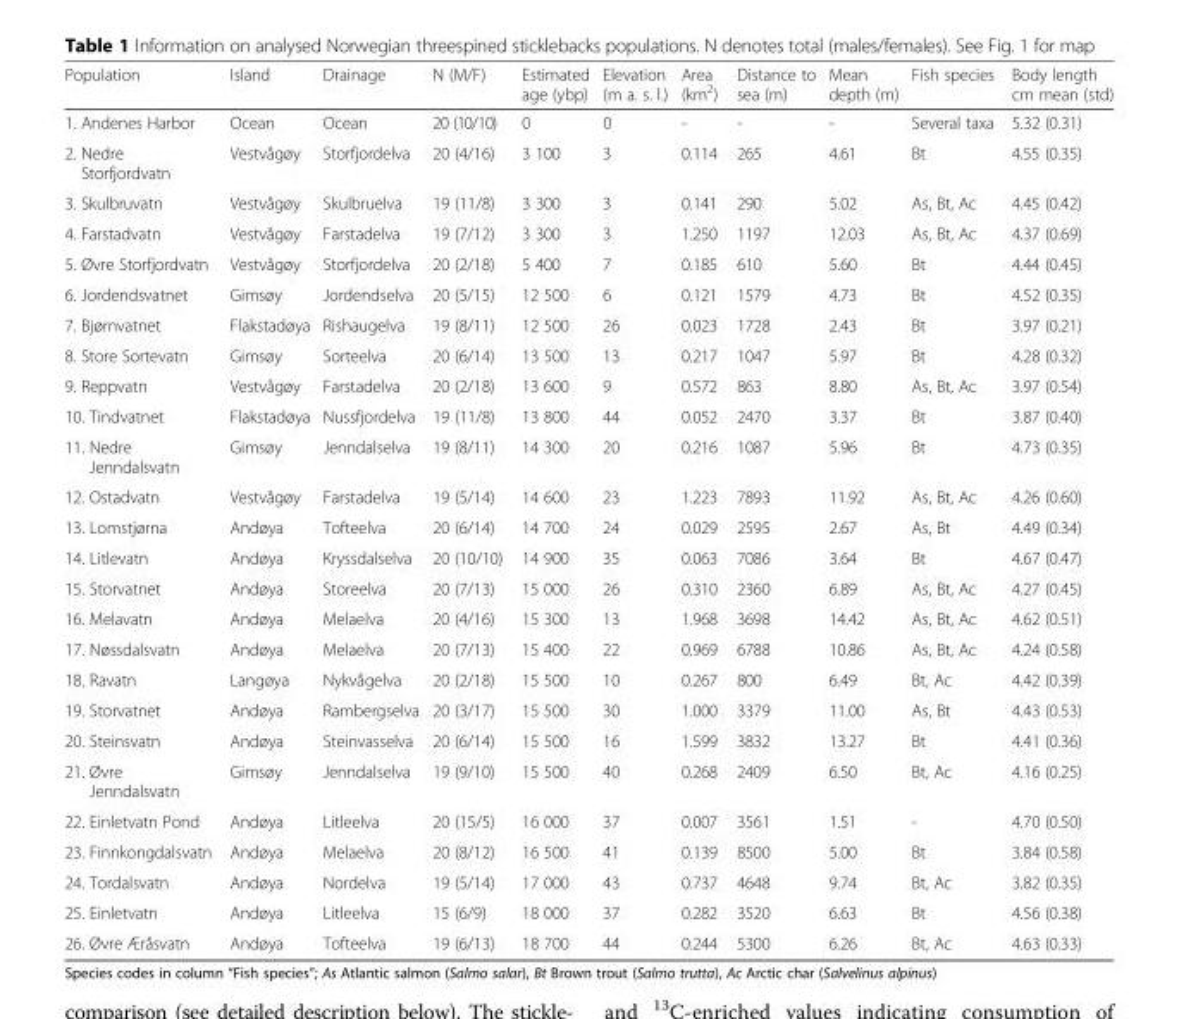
<table><thead><tr><td>Population</td><td>Island</td><td>Drainage</td><td>N (M/F)</td><td>Estimated age (ybp)</td><td>Elevation (m a. s. l.)</td><td>Area (km<sup>2</sup>)</td><td>Distance to sea (m)</td><td>Mean depth (m)</td><td>Fish species</td><td>Body length cm mean (std)</td></tr></thead><tbody><tr><td>1. Andenes Harbor</td><td>Ocean</td><td>Ocean</td><td>20 (10/10)</td><td>0</td><td>0</td><td>-</td><td>-</td><td>-</td><td>Several taxa</td><td>5.32 (0.31)</td></tr><tr><td>2. Nedre Storfjordvatn</td><td>Vestvågøy</td><td>Storfjordelva</td><td>20 (4/16)</td><td>3 100</td><td>3</td><td>0.114</td><td>265</td><td>4.61</td><td>Bt</td><td>4.55 (0.35)</td></tr><tr><td>3. Skulbruvatn</td><td>Vestvågøy</td><td>Skulbruelva</td><td>19 (11/8)</td><td>3 300</td><td>3</td><td>0.141</td><td>290</td><td>5.02</td><td>As, Bt, Ac</td><td>4.45 (0.42)</td></tr><tr><td>4. Farstadvatn</td><td>Vestvågøy</td><td>Farstadelva</td><td>19 (7/12)</td><td>3 300</td><td>3</td><td>1.250</td><td>1197</td><td>12.03</td><td>As, Bt, Ac</td><td>4.37 (0.69)</td></tr><tr><td>5. Øvre Storfjordvatn</td><td>Vestvågøy</td><td>Storfjordelva</td><td>20 (2/18)</td><td>5 400</td><td>7</td><td>0.185</td><td>610</td><td>5.60</td><td>Bt</td><td>4.44 (0.45)</td></tr><tr><td>6. Jordendsvatnet</td><td>Gimsøy</td><td>Jordendselva</td><td>20 (5/15)</td><td>12 500</td><td>6</td><td>0.121</td><td>1579</td><td>4.73</td><td>Bt</td><td>4.52 (0.35)</td></tr><tr><td>7. Bjørnvatnet</td><td>Flakstadøya</td><td>Rishaugelva</td><td>19 (8/11)</td><td>12 500</td><td>26</td><td>0.023</td><td>1728</td><td>2.43</td><td>Bt</td><td>3.97 (0.21)</td></tr><tr><td>8. Store Sortevatn</td><td>Gimsøy</td><td>Sorteelva</td><td>20 (6/14)</td><td>13 500</td><td>13</td><td>0.217</td><td>1047</td><td>5.97</td><td>Bt</td><td>4.28 (0.32)</td></tr><tr><td>9. Reppvatn</td><td>Vestvågøy</td><td>Farstadelva</td><td>20 (2/18)</td><td>13 600</td><td>9</td><td>0.572</td><td>863</td><td>8.80</td><td>As, Bt, Ac</td><td>3.97 (0.54)</td></tr><tr><td>10. Tindvatnet</td><td>Flakstadøya</td><td>Nussfjordelva</td><td>19 (11/8)</td><td>13 800</td><td>44</td><td>0.052</td><td>2470</td><td>3.37</td><td>Bt</td><td>3.87 (0.40)</td></tr><tr><td>11. Nedre Jenndalsvatn</td><td>Gimsøy</td><td>Jenndalselva</td><td>19 (8/11)</td><td>14 300</td><td>20</td><td>0.216</td><td>1087</td><td>5.96</td><td>Bt</td><td>4.73 (0.35)</td></tr><tr><td>12. Ostadvatn</td><td>Vestvågøy</td><td>Farstadelva</td><td>19 (5/14)</td><td>14 600</td><td>23</td><td>1.223</td><td>7893</td><td>11.92</td><td>As, Bt, Ac</td><td>4.26 (0.60)</td></tr><tr><td>13. Lomstjørna</td><td>Andøya</td><td>Tofteelva</td><td>20 (6/14)</td><td>14 700</td><td>24</td><td>0.029</td><td>2595</td><td>2.67</td><td>As, Bt</td><td>4.49 (0.34)</td></tr><tr><td>14. Litlevatn</td><td>Andøya</td><td>Kryssdalselva</td><td>20 (10/10)</td><td>14 900</td><td>35</td><td>0.063</td><td>7086</td><td>3.64</td><td>Bt</td><td>4.67 (0.47)</td></tr><tr><td>15. Storvatnet</td><td>Andøya</td><td>Storeelva</td><td>20 (7/13)</td><td>15 000</td><td>26</td><td>0.310</td><td>2360</td><td>6.89</td><td>As, Bt, Ac</td><td>4.27 (0.45)</td></tr><tr><td>16. Melavatn</td><td>Andøya</td><td>Melaelva</td><td>20 (4/16)</td><td>15 300</td><td>13</td><td>1.968</td><td>3698</td><td>14.42</td><td>As, Bt, Ac</td><td>4.62 (0.51)</td></tr><tr><td>17. Nøssdalsvatn</td><td>Andøya</td><td>Melaelva</td><td>20 (7/13)</td><td>15 400</td><td>22</td><td>0.969</td><td>6788</td><td>10.86</td><td>As, Bt, Ac</td><td>4.24 (0.58)</td></tr><tr><td>18. Ravatn</td><td>Langøya</td><td>Nykvågelva</td><td>20 (2/18)</td><td>15 500</td><td>10</td><td>0.267</td><td>800</td><td>6.49</td><td>Bt, Ac</td><td>4.42 (0.39)</td></tr><tr><td>19. Storvatnet</td><td>Andøya</td><td>Rambergselva</td><td>20 (3/17)</td><td>15 500</td><td>30</td><td>1.000</td><td>3379</td><td>11.00</td><td>As, Bt</td><td>4.43 (0.53)</td></tr><tr><td>20. Steinsvatn</td><td>Andøya</td><td>Steinvasselva</td><td>20 (6/14)</td><td>15 500</td><td>16</td><td>1.599</td><td>3832</td><td>13.27</td><td>Bt</td><td>4.41 (0.36)</td></tr><tr><td>21. Øvre Jenndalsvatn</td><td>Gimsøy</td><td>Jenndalselva</td><td>19 (9/10)</td><td>15 500</td><td>40</td><td>0.268</td><td>2409</td><td>6.50</td><td>Bt, Ac</td><td>4.16 (0.25)</td></tr><tr><td>22. Einletvatn Pond</td><td>Andøya</td><td>Litleelva</td><td>20 (15/5)</td><td>16 000</td><td>37</td><td>0.007</td><td>3561</td><td>1.51</td><td>-</td><td>4.70 (0.50)</td></tr><tr><td>23. Finnkongdalsvatn</td><td>Andøya</td><td>Melaelva</td><td>20 (8/12)</td><td>16 500</td><td>41</td><td>0.139</td><td>8500</td><td>5.00</td><td>Bt</td><td>3.84 (0.58)</td></tr><tr><td>24. Tordalsvatn</td><td>Andøya</td><td>Nordelva</td><td>19 (5/14)</td><td>17 000</td><td>43</td><td>0.737</td><td>4648</td><td>9.74</td><td>Bt, Ac</td><td>3.82 (0.35)</td></tr><tr><td>25. Einletvatn</td><td>Andøya</td><td>Litleelva</td><td>15 (6/9)</td><td>18 000</td><td>37</td><td>0.282</td><td>3520</td><td>6.63</td><td>Bt</td><td>4.56 (0.38)</td></tr><tr><td>26. Øvre Æråsvatn</td><td>Andøya</td><td>Tofteelva</td><td>19 (6/13)</td><td>18 700</td><td>44</td><td>0.244</td><td>5300</td><td>6.26</td><td>Bt, Ac</td><td>4.63 (0.33)</td></tr></tbody></table>